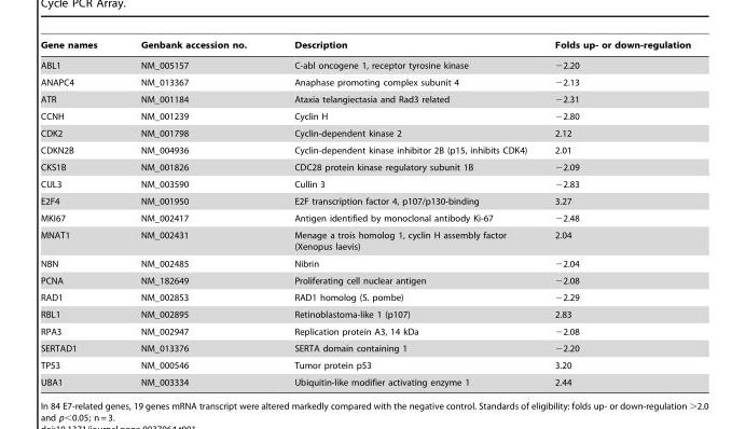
<table><thead><tr><td>Gene names</td><td>Genbank accession no.</td><td>Description</td><td>Folds up- or down-regulation</td></tr></thead><tbody><tr><td>ABL1</td><td>NM_005157</td><td>C-abl oncogene 1, receptor tyrosine kinase</td><td>−2.20</td></tr><tr><td>ANAPC4</td><td>NM_013367</td><td>Anaphase promoting complex subunit 4</td><td>−2.13</td></tr><tr><td>ATR</td><td>NM_001184</td><td>Ataxia telangiectasia and Rad3 related</td><td>−2.31</td></tr><tr><td>CCNH</td><td>NM_001239</td><td>Cyclin H</td><td>−2.80</td></tr><tr><td>CDK2</td><td>NM_001798</td><td>Cyclin-dependent kinase 2</td><td>2.12</td></tr><tr><td>CDKN2B</td><td>NM_004936</td><td>Cyclin-dependent kinase inhibitor 2B (p15, inhibits CDK4)</td><td>2.01</td></tr><tr><td>CKS1B</td><td>NM_001826</td><td>CDC28 protein kinase regulatory subunit 1B</td><td>−2.09</td></tr><tr><td>CUL3</td><td>NM_003590</td><td>Cullin 3</td><td>−2.83</td></tr><tr><td>E2F4</td><td>NM_001950</td><td>E2F transcription factor 4, p107/p130-binding</td><td>3.27</td></tr><tr><td>MKI67</td><td>NM_002417</td><td>Antigen identified by monoclonal antibody Ki-67</td><td>−2.48</td></tr><tr><td>MNAT1</td><td>NM_002431</td><td>Menage a trois homolog 1, cyclin H assembly factor (Xenopus laevis)</td><td>2.04</td></tr><tr><td>NBN</td><td>NM_002485</td><td>Nibrin</td><td>−2.04</td></tr><tr><td>PCNA</td><td>NM_182649</td><td>Proliferating cell nuclear antigen</td><td>−2.08</td></tr><tr><td>RAD1</td><td>NM_002853</td><td>RAD1 homolog (S. pombe)</td><td>−2.29</td></tr><tr><td>RBL1</td><td>NM_002895</td><td>Retinoblastoma-like 1 (p107)</td><td>2.83</td></tr><tr><td>RPA3</td><td>NM_002947</td><td>Replication protein A3, 14 kDa</td><td>−2.08</td></tr><tr><td>SERTAD1</td><td>NM_013376</td><td>SERTA domain containing 1</td><td>−2.20</td></tr><tr><td>TP53</td><td>NM_000546</td><td>Tumor protein p53</td><td>3.20</td></tr><tr><td>UBA1</td><td>NM_003334</td><td>Ubiquitin-like modifier activating enzyme 1</td><td>2.44</td></tr></tbody></table>